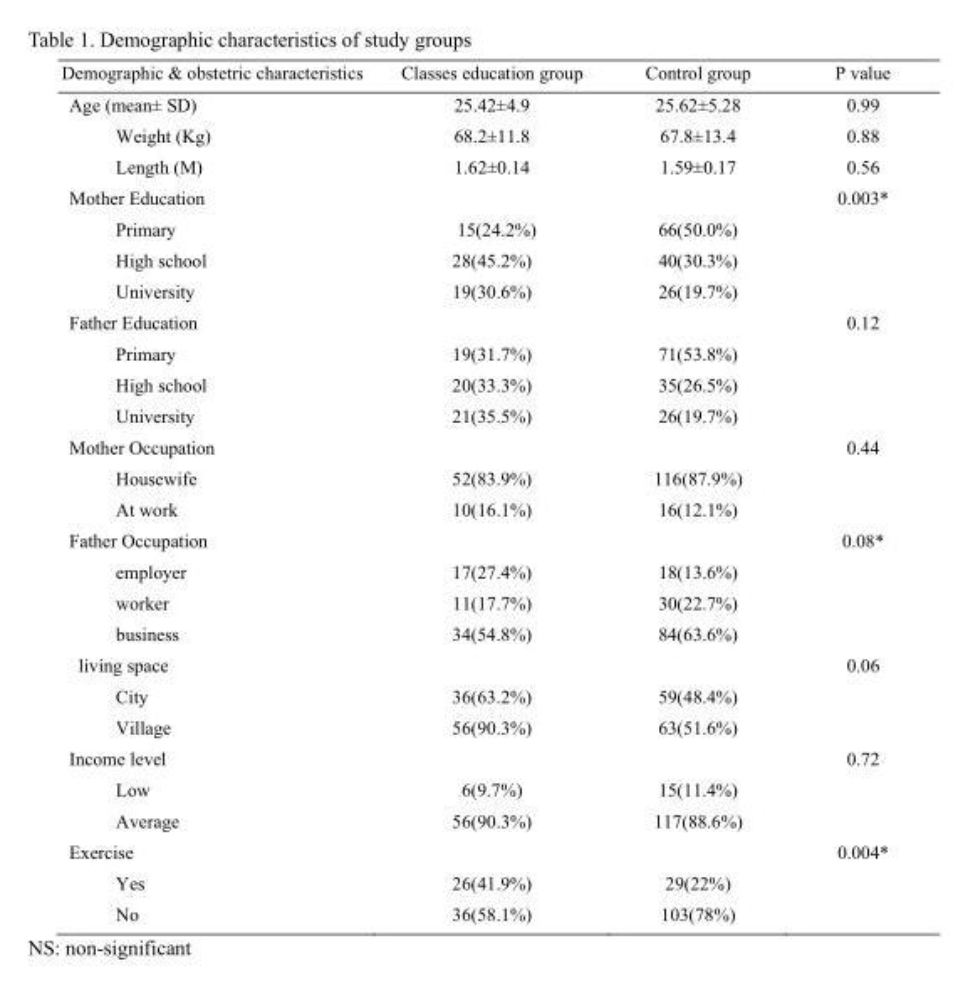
<table><thead><tr><td>Demographic &amp; obstetric characteristics</td><td>Classes education group</td><td>Control group</td><td>P value</td></tr></thead><tbody><tr><td>Age (mean± SD)</td><td>25.42±4.9</td><td>25.62±5.28</td><td>0.99</td></tr><tr><td>Weight (Kg)</td><td>68.2±11.8</td><td>67.8±13.4</td><td>0.88</td></tr><tr><td>Length (M)</td><td>1.62±0.14</td><td>1.59±0.17</td><td>0.56</td></tr><tr><td>Mother Education</td><td></td><td></td><td>0.003*</td></tr><tr><td>Primary</td><td>15(24.2%)</td><td>66(50.0%)</td><td></td></tr><tr><td>High school</td><td>28(45.2%)</td><td>40(30.3%)</td><td></td></tr><tr><td>University</td><td>19(30.6%)</td><td>26(19.7%)</td><td></td></tr><tr><td>Father Education</td><td></td><td></td><td>0.12</td></tr><tr><td>Primary</td><td>19(31.7%)</td><td>71(53.8%)</td><td></td></tr><tr><td>High school</td><td>20(33.3%)</td><td>35(26.5%)</td><td></td></tr><tr><td>University</td><td>21(35.5%)</td><td>26(19.7%)</td><td></td></tr><tr><td>Mother Occupation</td><td></td><td></td><td>0.44</td></tr><tr><td>Housewife</td><td>52(83.9%)</td><td>116(87.9%)</td><td></td></tr><tr><td>At work</td><td>10(16.1%)</td><td>16(12.1%)</td><td></td></tr><tr><td>Father Occupation</td><td></td><td></td><td>0.08*</td></tr><tr><td>employer</td><td>17(27.4%)</td><td>18(13.6%)</td><td></td></tr><tr><td>worker</td><td>11(17.7%)</td><td>30(22.7%)</td><td></td></tr><tr><td>business</td><td>34(54.8%)</td><td>84(63.6%)</td><td></td></tr><tr><td>living space</td><td></td><td></td><td>0.06</td></tr><tr><td>City</td><td>36(63.2%)</td><td>59(48.4%)</td><td></td></tr><tr><td>Village</td><td>56(90.3%)</td><td>63(51.6%)</td><td></td></tr><tr><td>Income level</td><td></td><td></td><td>0.72</td></tr><tr><td>Low</td><td>6(9.7%)</td><td>15(11.4%)</td><td></td></tr><tr><td>Average</td><td>56(90.3%)</td><td>117(88.6%)</td><td></td></tr><tr><td>Exercise</td><td></td><td></td><td>0.004*</td></tr><tr><td>Yes</td><td>26(41.9%)</td><td>29(22%)</td><td></td></tr><tr><td>No</td><td>36(58.1%)</td><td>103(78%)</td><td></td></tr></tbody></table>